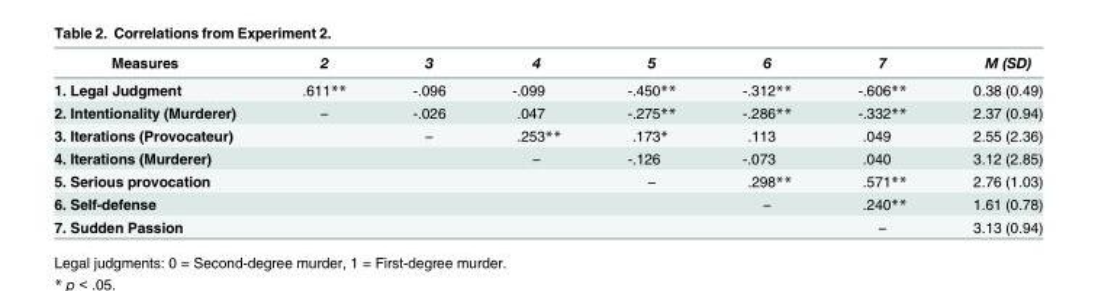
<table><thead><tr><td>Measures</td><td>2</td><td>3</td><td>4</td><td>5</td><td>6</td><td>7</td><td>M (SD)</td></tr></thead><tbody><tr><td>1. Legal Judgment</td><td>.611**</td><td>-.096</td><td>-.099</td><td>-.450**</td><td>-.312**</td><td>-.606**</td><td>0.38 (0.49)</td></tr><tr><td>2. Intentionality (Murderer)</td><td>–</td><td>-.026</td><td>.047</td><td>-.275**</td><td>-.286**</td><td>-.332**</td><td>2.37 (0.94)</td></tr><tr><td>3. Iterations (Provocateur)</td><td></td><td>–</td><td>.253**</td><td>.173*</td><td>.113</td><td>.049</td><td>2.55 (2.36)</td></tr><tr><td>4. Iterations (Murderer)</td><td></td><td></td><td>–</td><td>-.126</td><td>-.073</td><td>.040</td><td>3.12 (2.85)</td></tr><tr><td>5. Serious provocation</td><td></td><td></td><td></td><td>–</td><td>.298**</td><td>.571**</td><td>2.76 (1.03)</td></tr><tr><td>6. Self-defense</td><td></td><td></td><td></td><td></td><td>–</td><td>.240**</td><td>1.61 (0.78)</td></tr><tr><td>7. Sudden Passion</td><td></td><td></td><td></td><td></td><td></td><td>–</td><td>3.13 (0.94)</td></tr></tbody></table>